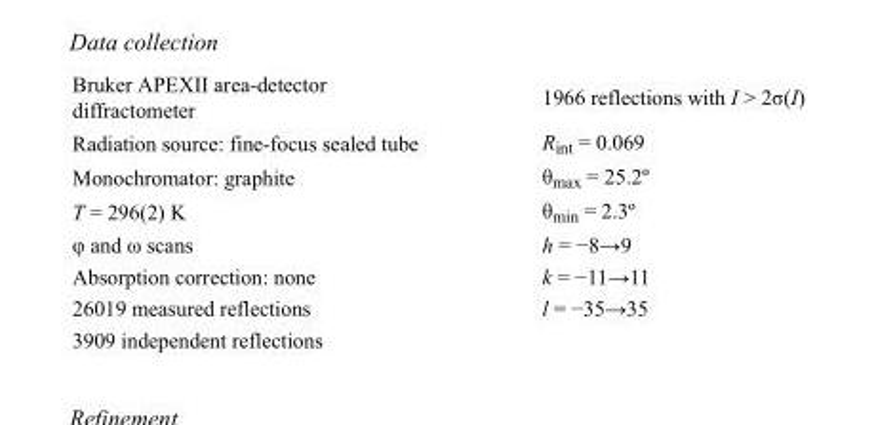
<table><tbody><tr><td>Bruker APEXII area-detector diffractometer</td><td>1966 reflections with I &gt; 2σ(I)</td></tr><tr><td>Radiation source: fine-focus sealed tube</td><td>R<sub>int</sub> = 0.069</td></tr><tr><td>Monochromator: graphite</td><td>θ<sub>max</sub> = 25.2º</td></tr><tr><td>T = 296(2) K</td><td>θ<sub>min</sub> = 2.3º</td></tr><tr><td>φ and ω scans</td><td>h = −8→9</td></tr><tr><td>Absorption correction: none</td><td>k = −11→11</td></tr><tr><td>26019 measured reflections</td><td>l = −35→35</td></tr><tr><td>3909 independent reflections</td><td></td></tr></tbody></table>